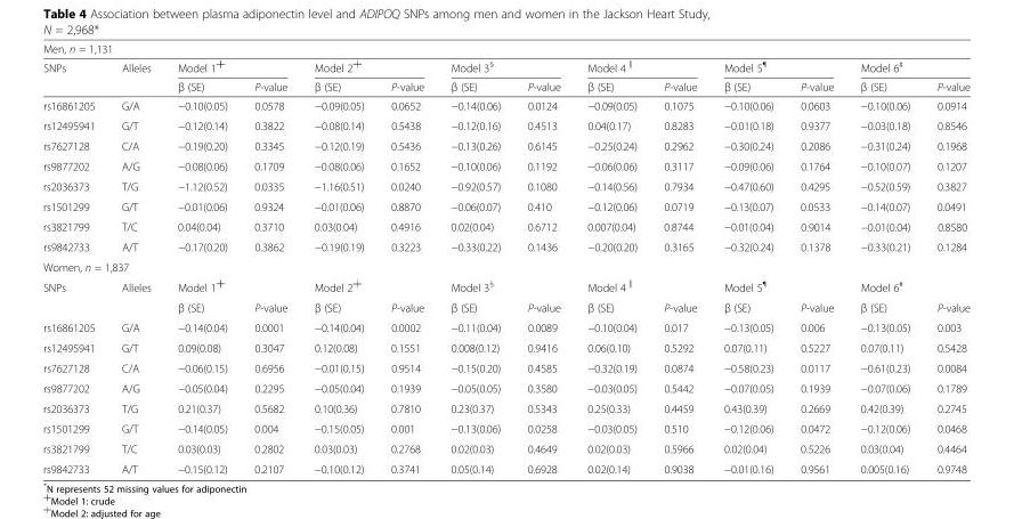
<table><thead><tr><td colspan="14">Men, n = 1,131</td></tr><tr><td rowspan="2">SNPs</td><td rowspan="2">Alleles</td><td colspan="2">Model 1<sup>┼</sup></td><td colspan="2">Model 2<sup>╪</sup></td><td colspan="2">Model 3<sup>§</sup></td><td colspan="2">Model 4<sup>║</sup></td><td colspan="2">Model 5<sup>¶</sup></td><td colspan="2">Model 6<sup>#</sup></td></tr><tr><td>β (SE)</td><td>P-value</td><td>β (SE)</td><td>P-value</td><td>β (SE)</td><td>P-value</td><td>β (SE)</td><td>P-value</td><td>β (SE)</td><td>P-value</td><td>β (SE)</td><td>P-value</td></tr></thead><tbody><tr><td>rs16861205</td><td>G/A</td><td>−0.10(0.05)</td><td>0.0578</td><td>−0.09(0.05)</td><td>0.0652</td><td>−0.14(0.06)</td><td>0.0124</td><td>−0.09(0.05)</td><td>0.1075</td><td>−0.10(0.06)</td><td>0.0603</td><td>−0.10(0.06)</td><td>0.0914</td></tr><tr><td>rs12495941</td><td>G/T</td><td>−0.12(0.14)</td><td>0.3822</td><td>−0.08(0.14)</td><td>0.5438</td><td>−0.12(0.16)</td><td>0.4513</td><td>0.04(0.17)</td><td>0.8283</td><td>−0.01(0.18)</td><td>0.9377</td><td>−0.03(0.18)</td><td>0.8546</td></tr><tr><td>rs7627128</td><td>C/A</td><td>−0.19(0.20)</td><td>0.3345</td><td>−0.12(0.19)</td><td>0.5436</td><td>−0.13(0.26)</td><td>0.6145</td><td>−0.25(0.24)</td><td>0.2962</td><td>−0.30(0.24)</td><td>0.2086</td><td>−0.31(0.24)</td><td>0.1968</td></tr><tr><td>rs9877202</td><td>A/G</td><td>−0.08(0.06)</td><td>0.1709</td><td>−0.08(0.06)</td><td>0.1652</td><td>−0.10(0.06)</td><td>0.1192</td><td>−0.06(0.06)</td><td>0.3117</td><td>−0.09(0.06)</td><td>0.1764</td><td>−0.10(0.07)</td><td>0.1207</td></tr><tr><td>rs2036373</td><td>T/G</td><td>−1.12(0.52)</td><td>0.0335</td><td>−1.16(0.51)</td><td>0.0240</td><td>−0.92(0.57)</td><td>0.1080</td><td>−0.14(0.56)</td><td>0.7934</td><td>−0.47(0.60)</td><td>0.4295</td><td>−0.52(0.59)</td><td>0.3827</td></tr><tr><td>rs1501299</td><td>G/T</td><td>−0.01(0.06)</td><td>0.9324</td><td>−0.01(0.06)</td><td>0.8870</td><td>−0.06(0.07)</td><td>0.410</td><td>−0.12(0.06)</td><td>0.0719</td><td>−0.13(0.07)</td><td>0.0533</td><td>−0.14(0.07)</td><td>0.0491</td></tr><tr><td>rs3821799</td><td>T/C</td><td>0.04(0.04)</td><td>0.3710</td><td>0.03(0.04)</td><td>0.4916</td><td>0.02(0.04)</td><td>0.6712</td><td>0.007(0.04)</td><td>0.8744</td><td>−0.01(0.04)</td><td>0.9014</td><td>−0.01(0.04)</td><td>0.8580</td></tr><tr><td>rs9842733</td><td>A/T</td><td>−0.17(0.20)</td><td>0.3862</td><td>−0.19(0.19)</td><td>0.3223</td><td>−0.33(0.22)</td><td>0.1436</td><td>−0.20(0.20)</td><td>0.3165</td><td>−0.32(0.24)</td><td>0.1378</td><td>−0.33(0.21)</td><td>0.1284</td></tr><tr><td colspan="14">Women, n = 1,837</td></tr><tr><td rowspan="2">SNPs</td><td>Alleles</td><td colspan="2">Model 1<sup>┼</sup></td><td colspan="2">Model 2<sup>╪</sup></td><td colspan="2">Model 3<sup>§</sup></td><td colspan="2">Model 4<sup>║</sup></td><td colspan="2">Model 5<sup>¶</sup></td><td colspan="2">Model 6<sup>#</sup></td></tr><tr><td></td><td>β (SE)</td><td>P-value</td><td>β (SE)</td><td>P-value</td><td>β (SE)</td><td>P-value</td><td>β (SE)</td><td>P-value</td><td>β (SE)</td><td>P-value</td><td>β (SE)</td><td>P-value</td></tr><tr><td>rs16861205</td><td>G/A</td><td>−0.14(0.04)</td><td>0.0001</td><td>−0.14(0.04)</td><td>0.0002</td><td>−0.11(0.04)</td><td>0.0089</td><td>−0.10(0.04)</td><td>0.017</td><td>−0.13(0.05)</td><td>0.006</td><td>−0.13(0.05)</td><td>0.003</td></tr><tr><td>rs12495941</td><td>G/T</td><td>0.09(0.08)</td><td>0.3047</td><td>0.12(0.08)</td><td>0.1551</td><td>0.008(0.12)</td><td>0.9416</td><td>0.06(0.10)</td><td>0.5292</td><td>0.07(0.11)</td><td>0.5227</td><td>0.07(0.11)</td><td>0.5428</td></tr><tr><td>rs7627128</td><td>C/A</td><td>−0.06(0.15)</td><td>0.6956</td><td>−0.01(0.15)</td><td>0.9514</td><td>−0.15(0.20)</td><td>0.4585</td><td>−0.32(0.19)</td><td>0.0874</td><td>−0.58(0.23)</td><td>0.0117</td><td>−0.61(0.23)</td><td>0.0084</td></tr><tr><td>rs9877202</td><td>A/G</td><td>−0.05(0.04)</td><td>0.2295</td><td>−0.05(0.04)</td><td>0.1939</td><td>−0.05(0.05)</td><td>0.3580</td><td>−0.03(0.05)</td><td>0.5442</td><td>−0.07(0.05)</td><td>0.1939</td><td>−0.07(0.06)</td><td>0.1789</td></tr><tr><td>rs2036373</td><td>T/G</td><td>0.21(0.37)</td><td>0.5682</td><td>0.10(0.36)</td><td>0.7810</td><td>0.23(0.37)</td><td>0.5343</td><td>0.25(0.33)</td><td>0.4459</td><td>0.43(0.39)</td><td>0.2669</td><td>0.42(0.39)</td><td>0.2745</td></tr><tr><td>rs1501299</td><td>G/T</td><td>−0.14(0.05)</td><td>0.004</td><td>−0.15(0.05)</td><td>0.001</td><td>−0.13(0.06)</td><td>0.0258</td><td>−0.03(0.05)</td><td>0.510</td><td>−0.12(0.06)</td><td>0.0472</td><td>−0.12(0.06)</td><td>0.0468</td></tr><tr><td>rs3821799</td><td>T/C</td><td>0.03(0.03)</td><td>0.2802</td><td>0.03(0.03)</td><td>0.2768</td><td>0.02(0.03)</td><td>0.4649</td><td>0.02(0.03)</td><td>0.5966</td><td>0.02(0.04)</td><td>0.5226</td><td>0.03(0.04)</td><td>0.4464</td></tr><tr><td>rs9842733</td><td>A/T</td><td>−0.15(0.12)</td><td>0.2107</td><td>−0.10(0.12)</td><td>0.3741</td><td>0.05(0.14)</td><td>0.6928</td><td>0.02(0.14)</td><td>0.9038</td><td>−0.01(0.16)</td><td>0.9561</td><td>0.005(0.16)</td><td>0.9748</td></tr></tbody></table>